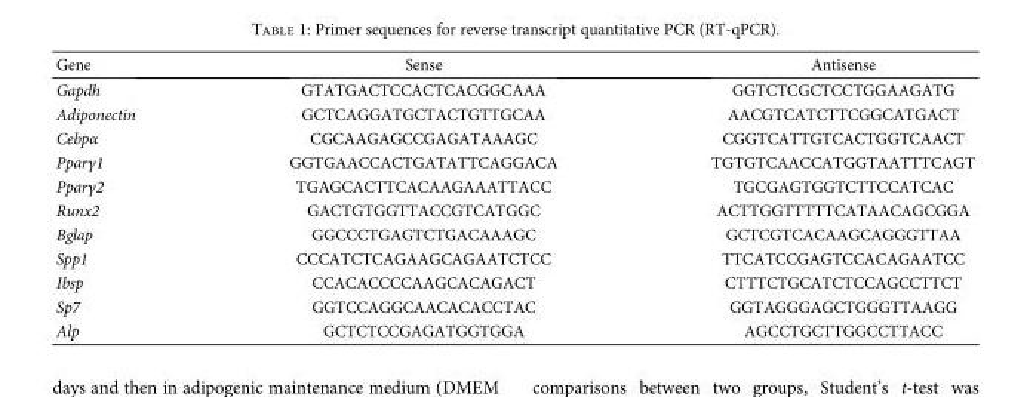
<table><thead><tr><td>Gene</td><td>Sense</td><td>Antisense</td></tr></thead><tbody><tr><td>Gapdh</td><td>GTATGACTCCACTCACGGCAAA</td><td>GGTCTCGCTCCTGGAAGATG</td></tr><tr><td>Adiponectin</td><td>GCTCAGGATGCTACTGTTGCAA</td><td>AACGTCATCTTCGGCATGACT</td></tr><tr><td>Cebpα</td><td>CGCAAGAGCCGAGATAAAGC</td><td>CGGTCATTGTCACTGGTCAACT</td></tr><tr><td>Pparγ1</td><td>GGTGAACCACTGATATTCAGGACA</td><td>TGTGTCAACCATGGTAATTTCAGT</td></tr><tr><td>Pparγ2</td><td>TGAGCACTTCACAAGAAATTACC</td><td>TGCGAGTGGTCTTCCATCAC</td></tr><tr><td>Runx2</td><td>GACTGTGGTTACCGTCATGGC</td><td>ACTTGGTTTTTCATAACAGCGGA</td></tr><tr><td>Bglap</td><td>GGCCCTGAGTCTGACAAAGC</td><td>GCTCGTCACAAGCAGGGTTAA</td></tr><tr><td>Spp1</td><td>CCCATCTCAGAAGCAGAATCTCC</td><td>TTCATCCGAGTCCACAGAATCC</td></tr><tr><td>Ibsp</td><td>CCACACCCCAAGCACAGACT</td><td>CTTTCTGCATCTCCAGCCTTCT</td></tr><tr><td>Sp7</td><td>GGTCCAGGCAACACACCTAC</td><td>GGTAGGGAGCTGGGTTAAGG</td></tr><tr><td>Alp</td><td>GCTCTCCGAGATGGTGGA</td><td>AGCCTGCTTGGCCTTACC</td></tr></tbody></table>